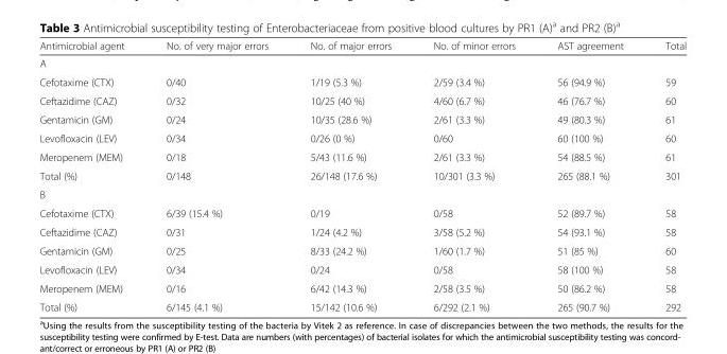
<table><thead><tr><td>Antimicrobial agent</td><td>No. of very major errors</td><td>No. of major errors</td><td>No. of minor errors</td><td>AST agreement</td><td>Total</td></tr></thead><tbody><tr><td colspan="6">A</td></tr><tr><td>Cefotaxime (CTX)</td><td>0/40</td><td>1/19 (5.3 %)</td><td>2/59 (3.4 %)</td><td>56 (94.9 %)</td><td>59</td></tr><tr><td>Ceftazidime (CAZ)</td><td>0/32</td><td>10/25 (40 %)</td><td>4/60 (6.7 %)</td><td>46 (76.7 %)</td><td>60</td></tr><tr><td>Gentamicin (GM)</td><td>0/24</td><td>10/35 (28.6 %)</td><td>2/61 (3.3 %)</td><td>49 (80.3 %)</td><td>61</td></tr><tr><td>Levofloxacin (LEV)</td><td>0/34</td><td>0/26 (0 %)</td><td>0/60</td><td>60 (100 %)</td><td>60</td></tr><tr><td>Meropenem (MEM)</td><td>0/18</td><td>5/43 (11.6 %)</td><td>2/61 (3.3 %)</td><td>54 (88.5 %)</td><td>61</td></tr><tr><td>Total (%)</td><td>0/148</td><td>26/148 (17.6 %)</td><td>10/301 (3.3 %)</td><td>265 (88.1 %)</td><td>301</td></tr><tr><td colspan="6">B</td></tr><tr><td>Cefotaxime (CTX)</td><td>6/39 (15.4 %)</td><td>0/19</td><td>0/58</td><td>52 (89.7 %)</td><td>58</td></tr><tr><td>Ceftazidime (CAZ)</td><td>0/31</td><td>1/24 (4.2 %)</td><td>3/58 (5.2 %)</td><td>54 (93.1 %)</td><td>58</td></tr><tr><td>Gentamicin (GM)</td><td>0/25</td><td>8/33 (24.2 %)</td><td>1/60 (1.7 %)</td><td>51 (85 %)</td><td>60</td></tr><tr><td>Levofloxacin (LEV)</td><td>0/34</td><td>0/24</td><td>0/58</td><td>58 (100 %)</td><td>58</td></tr><tr><td>Meropenem (MEM)</td><td>0/16</td><td>6/42 (14.3 %)</td><td>2/58 (3.5 %)</td><td>50 (86.2 %)</td><td>58</td></tr><tr><td>Total (%)</td><td>6/145 (4.1 %)</td><td>15/142 (10.6 %)</td><td>6/292 (2.1 %)</td><td>265 (90.7 %)</td><td>292</td></tr></tbody></table>